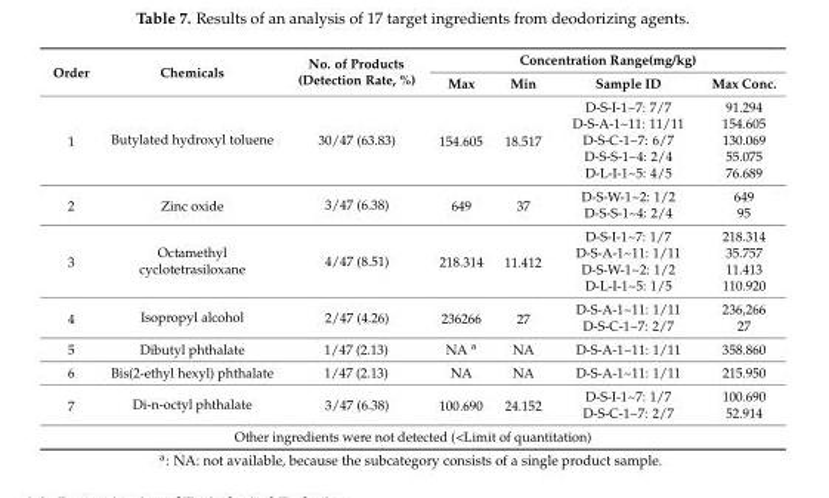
<table><thead><tr><td rowspan="2">Order</td><td rowspan="2">Chemicals</td><td rowspan="2">No. of Products (Detection Rate, %)</td><td colspan="4">Concentration Range(mg/kg)</td></tr><tr><td>Max</td><td>Min</td><td>Sample ID</td><td>Max Conc.</td></tr></thead><tbody><tr><td rowspan="5">1</td><td rowspan="5">Butylated hydroxyl toluene</td><td rowspan="5">30/47 (63.83)</td><td rowspan="5">154.605</td><td rowspan="5">18.517</td><td>D-S-I-1~7: 7/7</td><td>91.294</td></tr><tr><td>D-S-A-1~11: 11/11</td><td>154.605</td></tr><tr><td>D-S-C-1~7: 6/7</td><td>130.069</td></tr><tr><td>D-S-S-1~4: 2/4</td><td>55.075</td></tr><tr><td>D-L-I-1~5: 4/5</td><td>76.689</td></tr><tr><td rowspan="2">2</td><td rowspan="2">Zinc oxide</td><td rowspan="2">3/47 (6.38)</td><td rowspan="2">649</td><td rowspan="2">37</td><td>D-S-W-1~2: 1/2</td><td>649</td></tr><tr><td>D-S-S-1~4: 2/4</td><td>95</td></tr><tr><td rowspan="4">3</td><td rowspan="4">Octamethyl cyclotetrasiloxane</td><td rowspan="4">4/47 (8.51)</td><td rowspan="4">218.314</td><td rowspan="4">11.412</td><td>D-S-I-1~7: 1/7</td><td>218.314</td></tr><tr><td>D-S-A-1~11: 1/11</td><td>35.757</td></tr><tr><td>D-S-W-1~2: 1/2</td><td>11.413</td></tr><tr><td>D-L-I-1~5: 1/5</td><td>110.920</td></tr><tr><td rowspan="2">4</td><td rowspan="2">Isopropyl alcohol</td><td rowspan="2">2/47 (4.26)</td><td rowspan="2">236266</td><td rowspan="2">27</td><td>D-S-A-1~11: 1/11</td><td>236,266</td></tr><tr><td>D-S-C-1~7: 2/7</td><td>27</td></tr><tr><td>5</td><td>Dibutyl phthalate</td><td>1/47 (2.13)</td><td>NA <sup>a</sup></td><td>NA</td><td>D-S-A-1~11: 1/11</td><td>358.860</td></tr><tr><td>6</td><td>Bis(2-ethyl hexyl) phthalate</td><td>1/47 (2.13)</td><td>NA</td><td>NA</td><td>D-S-A-1~11: 1/11</td><td>215.950</td></tr><tr><td rowspan="2">7</td><td rowspan="2">Di-n-octyl phthalate</td><td rowspan="2">3/47 (6.38)</td><td rowspan="2">100.690</td><td rowspan="2">24.152</td><td>D-S-I-1~7: 1/7</td><td>100.690</td></tr><tr><td>D-S-C-1~7: 2/7</td><td>52.914</td></tr><tr><td colspan="7">Other ingredients were not detected (&lt;Limit of quantitation)</td></tr></tbody></table>